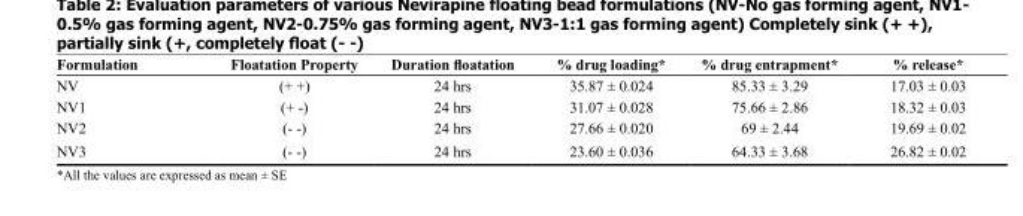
<table><thead><tr><td>Formulation</td><td>Floatation Property</td><td>Duration floatation</td><td>% drug loading*</td><td>% drug entrapment*</td><td>% release*</td></tr></thead><tbody><tr><td>NV</td><td>(+ +)</td><td>24 hrs</td><td>35.87 ± 0.024</td><td>85.33 ± 3.29</td><td>17.03 ± 0.03</td></tr><tr><td>NV1</td><td>(+ -)</td><td>24 hrs</td><td>31.07 ± 0.028</td><td>75.66 ± 2.86</td><td>18.32 ± 0.03</td></tr><tr><td>NV2</td><td>(- -)</td><td>24 hrs</td><td>27.66 ± 0.020</td><td>69 ± 2.44</td><td>19.69 ± 0.02</td></tr><tr><td>NV3</td><td>(- -)</td><td>24 hrs</td><td>23.60 ± 0.036</td><td>64.33 ± 3.68</td><td>26.82 ± 0.02</td></tr></tbody></table>